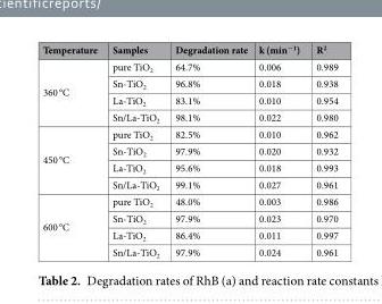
<table><thead><tr><td>Temperature</td><td>Samples</td><td>Degradation rate</td><td>k (min<sup>−1</sup>)</td><td>R<sup>2</sup></td></tr></thead><tbody><tr><td rowspan="4">360 °C</td><td>pure TiO<sub>2</sub></td><td>64.7%</td><td>0.006</td><td>0.989</td></tr><tr><td>Sn-TiO<sub>2</sub></td><td>96.8%</td><td>0.018</td><td>0.938</td></tr><tr><td>La-TiO<sub>2</sub></td><td>83.1%</td><td>0.010</td><td>0.954</td></tr><tr><td>Sn/La-TiO<sub>2</sub></td><td>98.1%</td><td>0.022</td><td>0.980</td></tr><tr><td rowspan="4">450 °C</td><td>pure TiO<sub>2</sub></td><td>82.5%</td><td>0.010</td><td>0.962</td></tr><tr><td>Sn-TiO<sub>2</sub></td><td>97.9%</td><td>0.020</td><td>0.932</td></tr><tr><td>La-TiO<sub>2</sub></td><td>95.6%</td><td>0.018</td><td>0.993</td></tr><tr><td>Sn/La-TiO<sub>2</sub></td><td>99.1%</td><td>0.027</td><td>0.961</td></tr><tr><td rowspan="4">600 °C</td><td>pure TiO<sub>2</sub></td><td>48.0%</td><td>0.003</td><td>0.986</td></tr><tr><td>Sn-TiO<sub>2</sub></td><td>97.9%</td><td>0.023</td><td>0.970</td></tr><tr><td>La-TiO<sub>2</sub></td><td>86.4%</td><td>0.011</td><td>0.997</td></tr><tr><td>Sn/La-TiO<sub>2</sub></td><td>97.9%</td><td>0.024</td><td>0.961</td></tr></tbody></table>